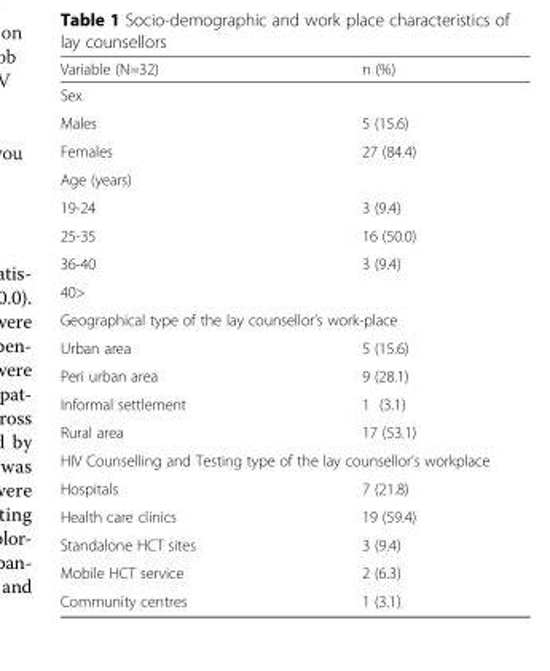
<table><thead><tr><td>Variable (N=32)</td><td>n (%)</td></tr></thead><tbody><tr><td colspan="2">Sex</td></tr><tr><td>Males</td><td>5 (15.6)</td></tr><tr><td>Females</td><td>27 (84.4)</td></tr><tr><td colspan="2">Age (years)</td></tr><tr><td>19-24</td><td>3 (9.4)</td></tr><tr><td>25-35</td><td>16 (50.0)</td></tr><tr><td>36-40</td><td>3 (9.4)</td></tr><tr><td colspan="2">40&gt;</td></tr><tr><td colspan="2">Geographical type of the lay counsellor’s work-place</td></tr><tr><td>Urban area</td><td>5 (15.6)</td></tr><tr><td>Peri urban area</td><td>9 (28.1)</td></tr><tr><td>Informal settlement</td><td>1 (3.1)</td></tr><tr><td>Rural area</td><td>17 (53.1)</td></tr><tr><td colspan="2">HIV Counselling and Testing type of the lay counsellor’s workplace</td></tr><tr><td>Hospitals</td><td>7 (21.8)</td></tr><tr><td>Health care clinics</td><td>19 (59.4)</td></tr><tr><td>Standalone HCT sites</td><td>3 (9.4)</td></tr><tr><td>Mobile HCT service</td><td>2 (6.3)</td></tr><tr><td>Community centres</td><td>1 (3.1)</td></tr></tbody></table>